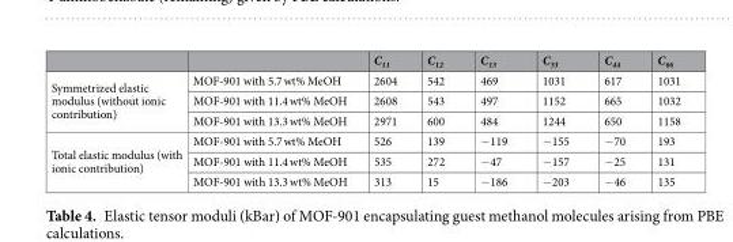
<table><thead><tr><td></td><td></td><td>C<sub>11</sub></td><td>C<sub>12</sub></td><td>C<sub>13</sub></td><td>C<sub>33</sub></td><td>C<sub>44</sub></td><td>C<sub>66</sub></td></tr></thead><tbody><tr><td rowspan="3">Symmetrized elastic modulus (without ionic contribution)</td><td>MOF-901 with 5.7 wt% MeOH</td><td>2604</td><td>542</td><td>469</td><td>1031</td><td>617</td><td>1031</td></tr><tr><td>MOF-901 with 11.4 wt% MeOH</td><td>2608</td><td>543</td><td>497</td><td>1152</td><td>665</td><td>1032</td></tr><tr><td>MOF-901 with 13.3 wt% MeOH</td><td>2971</td><td>600</td><td>484</td><td>1244</td><td>650</td><td>1158</td></tr><tr><td rowspan="3">Total elastic modulus (with ionic contribution)</td><td>MOF-901 with 5.7 wt% MeOH</td><td>526</td><td>139</td><td>−119</td><td>−155</td><td>−70</td><td>193</td></tr><tr><td>MOF-901 with 11.4 wt% MeOH</td><td>535</td><td>272</td><td>−47</td><td>−157</td><td>−25</td><td>131</td></tr><tr><td>MOF-901 with 13.3 wt% MeOH</td><td>313</td><td>15</td><td>−186</td><td>−203</td><td>−46</td><td>135</td></tr></tbody></table>